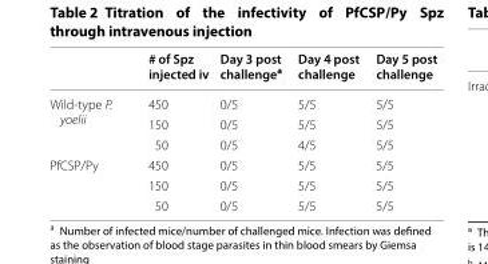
<table><thead><tr><td></td><td># of Spz injected iv</td><td>Day 3 post challenge<sup>a</sup></td><td>Day 4 post challenge</td><td>Day 5 post challenge</td></tr></thead><tbody><tr><td rowspan="3">Wild-type P. yoelii</td><td>450</td><td>0/5</td><td>5/5</td><td>5/5</td></tr><tr><td>150</td><td>0/5</td><td>5/5</td><td>5/5</td></tr><tr><td>50</td><td>0/5</td><td>4/5</td><td>5/5</td></tr><tr><td rowspan="3">PfCSP/Py</td><td>450</td><td>0/5</td><td>5/5</td><td>5/5</td></tr><tr><td>150</td><td>0/5</td><td>5/5</td><td>5/5</td></tr><tr><td>50</td><td>0/5</td><td>5/5</td><td>5/5</td></tr></tbody></table>